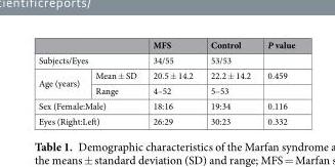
<table><thead><tr><td></td><td></td><td>MFS</td><td>Control</td><td>P value</td></tr></thead><tbody><tr><td colspan="2">Subjects/Eyes</td><td>34/55</td><td>53/53</td><td></td></tr><tr><td rowspan="2">Age (years)</td><td>Mean ± SD</td><td>20.5 ± 14.2</td><td>22.2 ± 14.2</td><td>0.459</td></tr><tr><td>Range</td><td>4–52</td><td>5–53</td><td></td></tr><tr><td colspan="2">Sex (Female:Male)</td><td>18:16</td><td>19:34</td><td>0.116</td></tr><tr><td colspan="2">Eyes (Right:Left)</td><td>26:29</td><td>30:23</td><td>0.332</td></tr></tbody></table>